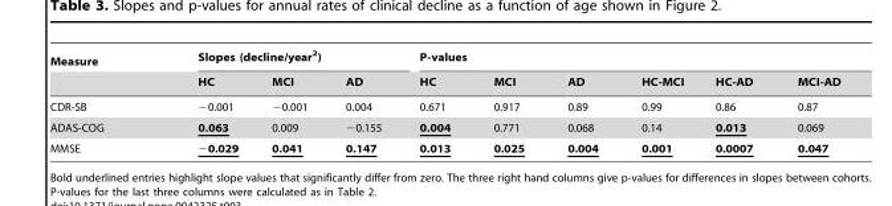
<table><thead><tr><td rowspan="2">Measure</td><td colspan="3">Slopes (decline/year<sup>2</sup>)</td><td colspan="6">P-values</td></tr><tr><td>HC</td><td>MCI</td><td>AD</td><td>HC</td><td>MCI</td><td>AD</td><td>HC-MCI</td><td>HC-AD</td><td>MCI-AD</td></tr></thead><tbody><tr><td>CDR-SB</td><td>−0.001</td><td>−0.001</td><td>0.004</td><td>0.671</td><td>0.917</td><td>0.89</td><td>0.99</td><td>0.86</td><td>0.87</td></tr><tr><td>ADAS-COG</td><td>0.063</td><td>0.009</td><td>−0.155</td><td>0.004</td><td>0.771</td><td>0.068</td><td>0.14</td><td>0.013</td><td>0.069</td></tr><tr><td>MMSE</td><td>−0.029</td><td>0.041</td><td>0.147</td><td>0.013</td><td>0.025</td><td>0.004</td><td>0.001</td><td>0.0007</td><td>0.047</td></tr></tbody></table>